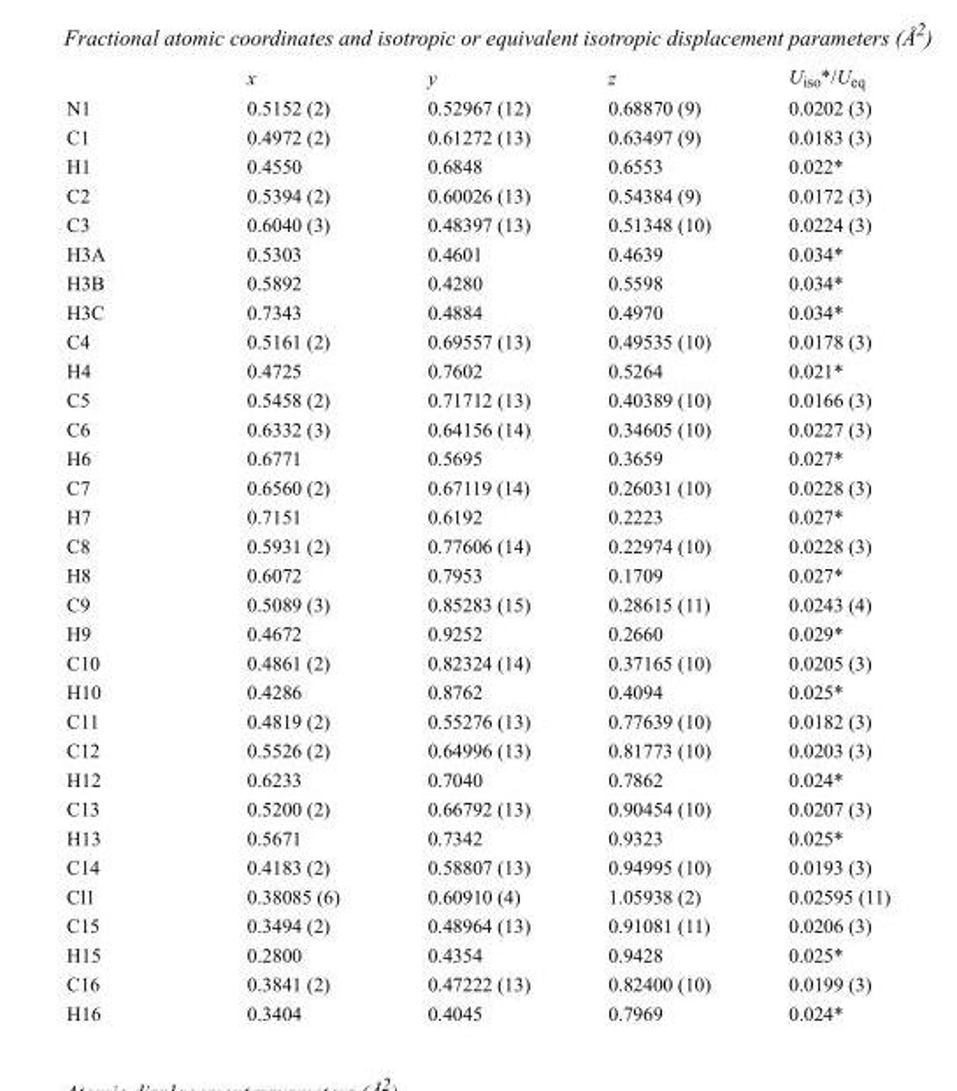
<table><thead><tr><td></td><td>x</td><td>y</td><td>z</td><td>U<sub>iso</sub>*/U<sub>eq</sub></td></tr></thead><tbody><tr><td>N1</td><td>0.5152 (2)</td><td>0.52967 (12)</td><td>0.68870 (9)</td><td>0.0202 (3)</td></tr><tr><td>C1</td><td>0.4972 (2)</td><td>0.61272 (13)</td><td>0.63497 (9)</td><td>0.0183 (3)</td></tr><tr><td>H1</td><td>0.4550</td><td>0.6848</td><td>0.6553</td><td>0.022*</td></tr><tr><td>C2</td><td>0.5394 (2)</td><td>0.60026 (13)</td><td>0.54384 (9)</td><td>0.0172 (3)</td></tr><tr><td>C3</td><td>0.6040 (3)</td><td>0.48397 (13)</td><td>0.51348 (10)</td><td>0.0224 (3)</td></tr><tr><td>H3A</td><td>0.5303</td><td>0.4601</td><td>0.4639</td><td>0.034*</td></tr><tr><td>H3B</td><td>0.5892</td><td>0.4280</td><td>0.5598</td><td>0.034*</td></tr><tr><td>H3C</td><td>0.7343</td><td>0.4884</td><td>0.4970</td><td>0.034*</td></tr><tr><td>C4</td><td>0.5161 (2)</td><td>0.69557 (13)</td><td>0.49535 (10)</td><td>0.0178 (3)</td></tr><tr><td>H4</td><td>0.4725</td><td>0.7602</td><td>0.5264</td><td>0.021*</td></tr><tr><td>C5</td><td>0.5458 (2)</td><td>0.71712 (13)</td><td>0.40389 (10)</td><td>0.0166 (3)</td></tr><tr><td>C6</td><td>0.6332 (3)</td><td>0.64156 (14)</td><td>0.34605 (10)</td><td>0.0227 (3)</td></tr><tr><td>H6</td><td>0.6771</td><td>0.5695</td><td>0.3659</td><td>0.027*</td></tr><tr><td>C7</td><td>0.6560 (2)</td><td>0.67119 (14)</td><td>0.26031 (10)</td><td>0.0228 (3)</td></tr><tr><td>H7</td><td>0.7151</td><td>0.6192</td><td>0.2223</td><td>0.027*</td></tr><tr><td>C8</td><td>0.5931 (2)</td><td>0.77606 (14)</td><td>0.22974 (10)</td><td>0.0228 (3)</td></tr><tr><td>H8</td><td>0.6072</td><td>0.7953</td><td>0.1709</td><td>0.027*</td></tr><tr><td>C9</td><td>0.5089 (3)</td><td>0.85283 (15)</td><td>0.28615 (11)</td><td>0.0243 (4)</td></tr><tr><td>H9</td><td>0.4672</td><td>0.9252</td><td>0.2660</td><td>0.029*</td></tr><tr><td>C10</td><td>0.4861 (2)</td><td>0.82324 (14)</td><td>0.37165 (10)</td><td>0.0205 (3)</td></tr><tr><td>H10</td><td>0.4286</td><td>0.8762</td><td>0.4094</td><td>0.025*</td></tr><tr><td>C11</td><td>0.4819 (2)</td><td>0.55276 (13)</td><td>0.77639 (10)</td><td>0.0182 (3)</td></tr><tr><td>C12</td><td>0.5526 (2)</td><td>0.64996 (13)</td><td>0.81773 (10)</td><td>0.0203 (3)</td></tr><tr><td>H12</td><td>0.6233</td><td>0.7040</td><td>0.7862</td><td>0.024*</td></tr><tr><td>C13</td><td>0.5200 (2)</td><td>0.66792 (13)</td><td>0.90454 (10)</td><td>0.0207 (3)</td></tr><tr><td>H13</td><td>0.5671</td><td>0.7342</td><td>0.9323</td><td>0.025*</td></tr><tr><td>C14</td><td>0.4183 (2)</td><td>0.58807 (13)</td><td>0.94995 (10)</td><td>0.0193 (3)</td></tr><tr><td>Cl1</td><td>0.38085 (6)</td><td>0.60910 (4)</td><td>1.05938 (2)</td><td>0.02595 (11)</td></tr><tr><td>C15</td><td>0.3494 (2)</td><td>0.48964 (13)</td><td>0.91081 (11)</td><td>0.0206 (3)</td></tr><tr><td>H15</td><td>0.2800</td><td>0.4354</td><td>0.9428</td><td>0.025*</td></tr><tr><td>C16</td><td>0.3841 (2)</td><td>0.47222 (13)</td><td>0.82400 (10)</td><td>0.0199 (3)</td></tr><tr><td>H16</td><td>0.3404</td><td>0.4045</td><td>0.7969</td><td>0.024*</td></tr></tbody></table>